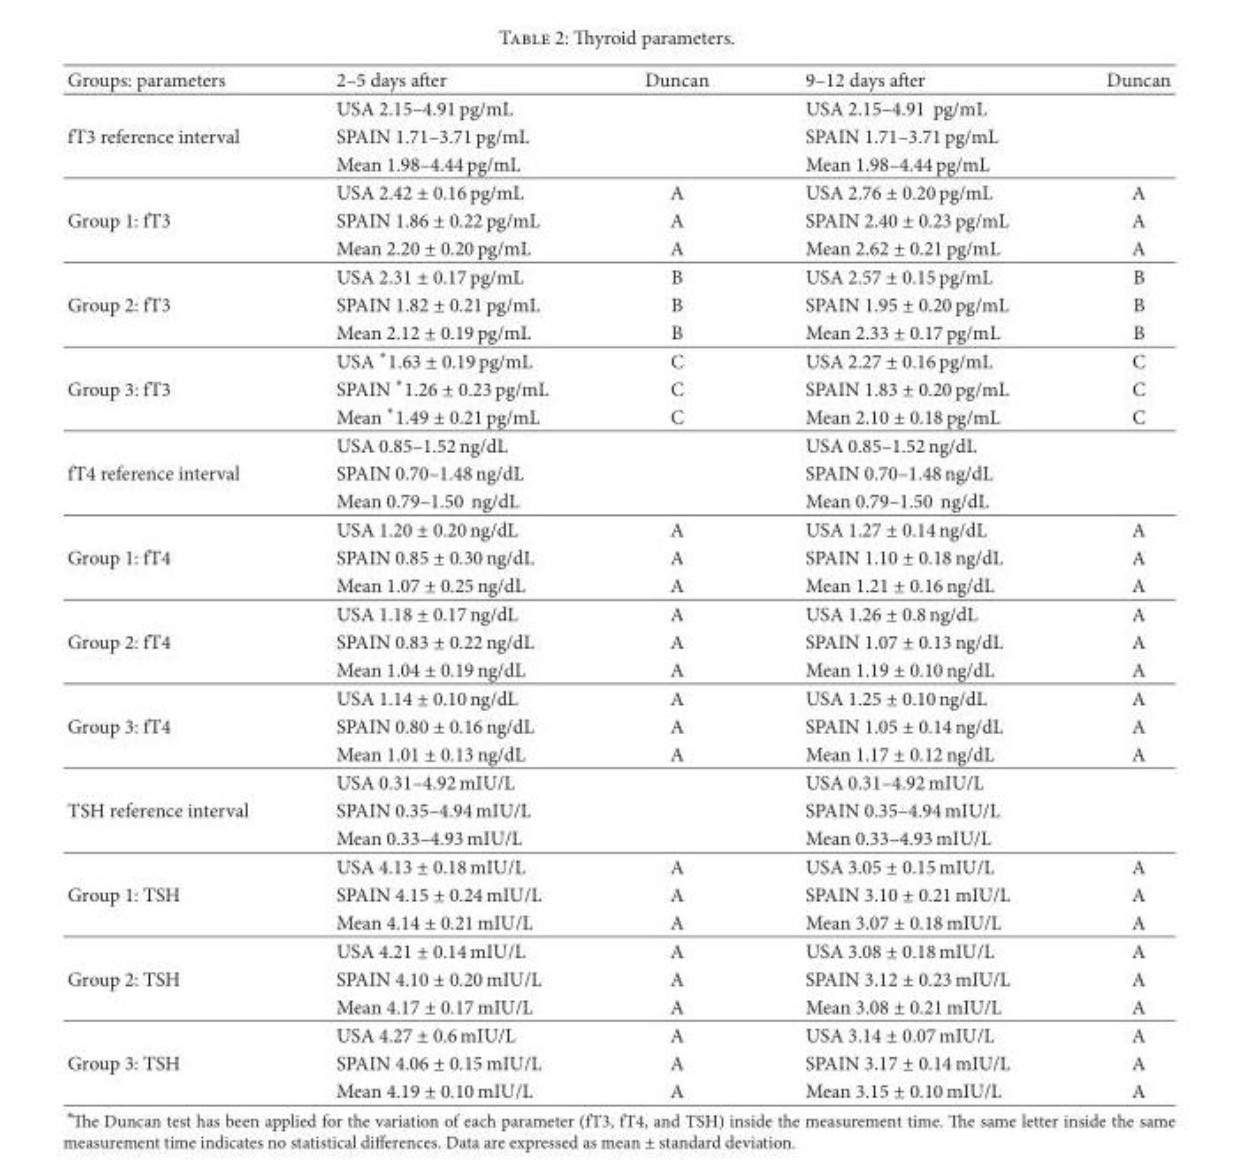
<table><thead><tr><td>Groups: parameters</td><td>2–5 days aer</td><td>Duncan</td><td>9–12 days aer</td><td>Duncan</td></tr></thead><tbody><tr><td></td><td>USA 2.15–4.91 pg/mL</td><td></td><td>USA 2.15–4.91 pg/mL</td><td></td></tr><tr><td rowspan="3">fT3 reference interval</td><td>SPAIN 1.71–3.71 pg/mL</td><td></td><td>SPAIN 1.71–3.71 pg/mL</td><td></td></tr><tr><td>Mean 1.98–4.44 pg/mL</td><td></td><td>Mean 1.98–4.44 pg/mL</td><td></td></tr><tr><td>USA 2.42 ± 0.16 pg/mL</td><td>A</td><td>USA 2.76 ± 0.20 pg/mL</td><td>A</td></tr><tr><td rowspan="3">Group 1: fT3</td><td>SPAIN 1.86 ± 0.22 pg/mL</td><td>A</td><td>SPAIN 2.40 ± 0.23 pg/mL</td><td>A</td></tr><tr><td>Mean 2.20 ± 0.20 pg/mL</td><td>A</td><td>Mean 2.62 ± 0.21 pg/mL</td><td>A</td></tr><tr><td>USA 2.31 ± 0.17 pg/mL</td><td>B</td><td>USA 2.57 ± 0.15 pg/mL</td><td>B</td></tr><tr><td rowspan="3">Group 2: fT3</td><td>SPAIN 1.82 ± 0.21 pg/mL</td><td>B</td><td>SPAIN 1.95 ± 0.20 pg/mL</td><td>B</td></tr><tr><td>Mean 2.12 ± 0.19 pg/mL</td><td>B</td><td>Mean 2.33 ± 0.17 pg/mL</td><td>B</td></tr><tr><td>USA ∗1.63 ± 0.19 pg/mL</td><td>C</td><td>USA 2.27 ± 0.16 pg/mL</td><td>C</td></tr><tr><td rowspan="3">Group 3: fT3</td><td>SPAIN ∗1.26 ± 0.23 pg/mL</td><td>C</td><td>SPAIN 1.83 ± 0.20 pg/mL</td><td>C</td></tr><tr><td>Mean ∗1.49 ± 0.21 pg/mL</td><td>C</td><td>Mean 2.10 ± 0.18 pg/mL</td><td>C</td></tr><tr><td>USA 0.85–1.52 ng/dL</td><td></td><td>USA 0.85–1.52 ng/dL</td><td></td></tr><tr><td rowspan="3">fT4 reference interval</td><td>SPAIN 0.70–1.48 ng/dL</td><td></td><td>SPAIN 0.70–1.48 ng/dL</td><td></td></tr><tr><td>Mean 0.79–1.50 ng/dL</td><td></td><td>Mean 0.79–1.50 ng/dL</td><td></td></tr><tr><td>USA 1.20 ± 0.20 ng/dL</td><td>A</td><td>USA 1.27 ± 0.14 ng/dL</td><td>A</td></tr><tr><td rowspan="3">Group 1: fT4</td><td>SPAIN 0.85 ± 0.30 ng/dL</td><td>A</td><td>SPAIN 1.10 ± 0.18 ng/dL</td><td>A</td></tr><tr><td>Mean 1.07 ± 0.25 ng/dL</td><td>A</td><td>Mean 1.21 ± 0.16 ng/dL</td><td>A</td></tr><tr><td>USA 1.18 ± 0.17 ng/dL</td><td>A</td><td>USA 1.26 ± 0.8 ng/dL</td><td>A</td></tr><tr><td rowspan="3">Group 2: fT4</td><td>SPAIN 0.83 ± 0.22 ng/dL</td><td>A</td><td>SPAIN 1.07 ± 0.13 ng/dL</td><td>A</td></tr><tr><td>Mean 1.04 ± 0.19 ng/dL</td><td>A</td><td>Mean 1.19 ± 0.10 ng/dL</td><td>A</td></tr><tr><td>USA 1.14 ± 0.10 ng/dL</td><td>A</td><td>USA 1.25 ± 0.10 ng/dL</td><td>A</td></tr><tr><td rowspan="3">Group 3: fT4</td><td>SPAIN 0.80 ± 0.16 ng/dL</td><td>A</td><td>SPAIN 1.05 ± 0.14 ng/dL</td><td>A</td></tr><tr><td>Mean 1.01 ± 0.13 ng/dL</td><td>A</td><td>Mean 1.17 ± 0.12 ng/dL</td><td>A</td></tr><tr><td>USA 0.31–4.92 mIU/L</td><td></td><td>USA 0.31–4.92 mIU/L</td><td></td></tr><tr><td rowspan="3">TSH reference interval</td><td>SPAIN 0.35–4.94 mIU/L</td><td></td><td>SPAIN 0.35–4.94 mIU/L</td><td></td></tr><tr><td>Mean 0.33–4.93 mIU/L</td><td></td><td>Mean 0.33–4.93 mIU/L</td><td></td></tr><tr><td>USA 4.13 ± 0.18 mIU/L</td><td>A</td><td>USA 3.05 ± 0.15 mIU/L</td><td>A</td></tr><tr><td rowspan="3">Group 1: TSH</td><td>SPAIN 4.15 ± 0.24 mIU/L</td><td>A</td><td>SPAIN 3.10 ± 0.21 mIU/L</td><td>A</td></tr><tr><td>Mean 4.14 ± 0.21 mIU/L</td><td>A</td><td>Mean 3.07 ± 0.18 mIU/L</td><td>A</td></tr><tr><td>USA 4.21 ± 0.14 mIU/L</td><td>A</td><td>USA 3.08 ± 0.18 mIU/L</td><td>A</td></tr><tr><td rowspan="3">Group 2: TSH</td><td>SPAIN 4.10 ± 0.20 mIU/L</td><td>A</td><td>SPAIN 3.12 ± 0.23 mIU/L</td><td>A</td></tr><tr><td>Mean 4.17 ± 0.17 mIU/L</td><td>A</td><td>Mean 3.08 ± 0.21 mIU/L</td><td>A</td></tr><tr><td>USA 4.27 ± 0.6 mIU/L</td><td>A</td><td>USA 3.14 ± 0.07 mIU/L</td><td>A</td></tr><tr><td rowspan="2">Group 3: TSH</td><td>SPAIN 4.06 ± 0.15 mIU/L</td><td>A</td><td>SPAIN 3.17 ± 0.14 mIU/L</td><td>A</td></tr><tr><td>Mean 4.19 ± 0.10 mIU/L</td><td>A</td><td>Mean 3.15 ± 0.10 mIU/L</td><td>A</td></tr></tbody></table>